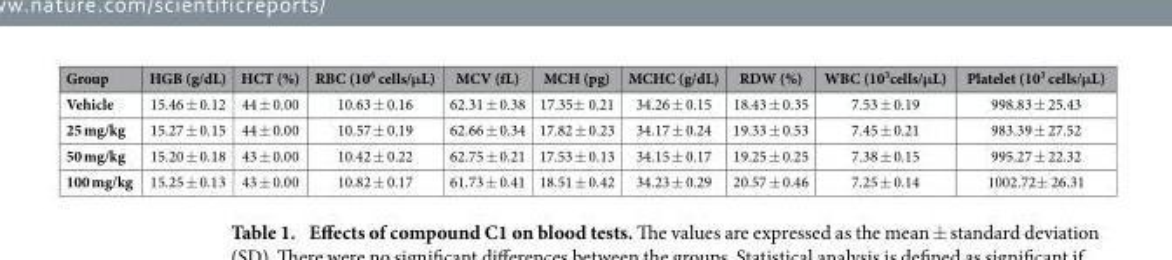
<table><thead><tr><td>Group</td><td>HGB (g/dL)</td><td>HCT (%)</td><td>RBC (10<sup>6</sup> cells/μL)</td><td>MCV (fL)</td><td>MCH (pg)</td><td>MCHC (g/dL)</td><td>RDW (%)</td><td>WBC (10<sup>3</sup>cells/μL)</td><td>Platelet (10<sup>3</sup> cells/μL)</td></tr></thead><tbody><tr><td>Vehicle</td><td>15.46 ± 0.12</td><td>44 ± 0.00</td><td>10.63 ± 0.16</td><td>62.31 ± 0.38</td><td>17.35± 0.21</td><td>34.26 ± 0.15</td><td>18.43 ± 0.35</td><td>7.53 ± 0.19</td><td>998.83 ± 25.43</td></tr><tr><td>25 mg/kg</td><td>15.27 ± 0.15</td><td>44 ± 0.00</td><td>10.57 ± 0.19</td><td>62.66 ± 0.34</td><td>17.82 ± 0.23</td><td>34.17 ± 0.24</td><td>19.33 ± 0.53</td><td>7.45 ± 0.21</td><td>983.39 ± 27.52</td></tr><tr><td>50 mg/kg</td><td>15.20 ± 0.18</td><td>43 ± 0.00</td><td>10.42 ± 0.22</td><td>62.75 ± 0.21</td><td>17.53 ± 0.13</td><td>34.15 ± 0.17</td><td>19.25 ± 0.25</td><td>7.38 ± 0.15</td><td>995.27 ± 22.32</td></tr><tr><td>100 mg/kg</td><td>15.25 ± 0.13</td><td>43 ± 0.00</td><td>10.82 ± 0.17</td><td>61.73 ± 0.41</td><td>18.51 ± 0.42</td><td>34.23 ± 0.29</td><td>20.57 ± 0.46</td><td>7.25 ± 0.14</td><td>1002.72± 26.31</td></tr></tbody></table>